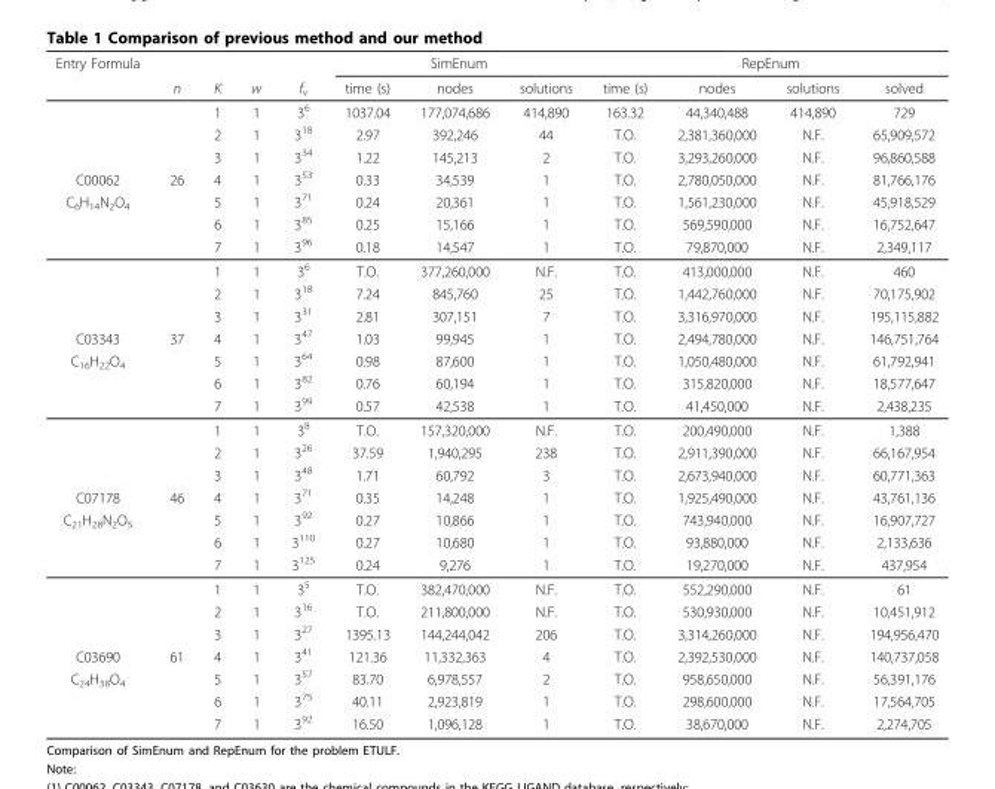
<table><thead><tr><td rowspan="2">Entry Formula</td><td rowspan="2">n</td><td rowspan="2">K</td><td rowspan="2">w</td><td rowspan="2">f<sub>v</sub></td><td colspan="3">SimEnum</td><td colspan="4">RepEnum</td></tr><tr><td>time (s)</td><td>nodes</td><td>solutions</td><td>time (s)</td><td>nodes</td><td>solutions</td><td>solved</td></tr></thead><tbody><tr><td></td><td></td><td>1</td><td>1</td><td>3<sup>6</sup></td><td>1037.04</td><td>177,074,686</td><td>414,890</td><td>163.32</td><td>44,340,488</td><td>414,890</td><td>729</td></tr><tr><td></td><td></td><td>2</td><td>1</td><td>3<sup>18</sup></td><td>2.97</td><td>392,246</td><td>44</td><td>T.O.</td><td>2,381,360,000</td><td>N.F.</td><td>65,909,572</td></tr><tr><td></td><td></td><td>3</td><td>1</td><td>3<sup>34</sup></td><td>1.22</td><td>145,213</td><td>2</td><td>T.O.</td><td>3,293,260,000</td><td>N.F.</td><td>96,860,588</td></tr><tr><td>C00062</td><td>26</td><td>4</td><td>1</td><td>3<sup>53</sup></td><td>0.33</td><td>34,539</td><td>1</td><td>T.O.</td><td>2,780,050,000</td><td>N.F.</td><td>81,766,176</td></tr><tr><td rowspan="6">C<sub>6</sub>H<sub>14</sub>N<sub>2</sub>O<sub>4</sub></td><td></td><td>5</td><td>1</td><td>3<sup>71</sup></td><td>0.24</td><td>20,361</td><td>1</td><td>T.O.</td><td>1,561,230,000</td><td>N.F.</td><td>45,918,529</td></tr><tr><td></td><td>6</td><td>1</td><td>3<sup>85</sup></td><td>0.25</td><td>15,166</td><td>1</td><td>T.O.</td><td>569,590,000</td><td>N.F.</td><td>16,752,647</td></tr><tr><td></td><td>7</td><td>1</td><td>3<sup>96</sup></td><td>0.18</td><td>14,547</td><td>1</td><td>T.O.</td><td>79,870,000</td><td>N.F.</td><td>2,349,117</td></tr><tr><td></td><td>1</td><td>1</td><td>3<sup>6</sup></td><td>T.O.</td><td>377,260,000</td><td>N.F.</td><td>T.O.</td><td>413,000,000</td><td>N.F.</td><td>460</td></tr><tr><td></td><td>2</td><td>1</td><td>3<sup>18</sup></td><td>7.24</td><td>845,760</td><td>25</td><td>T.O.</td><td>1,442,760,000</td><td>N.F.</td><td>70,175,902</td></tr><tr><td></td><td>3</td><td>1</td><td>3<sup>31</sup></td><td>2.81</td><td>307,151</td><td>7</td><td>T.O.</td><td>3,316,970,000</td><td>N.F.</td><td>195,115,882</td></tr><tr><td>C03343</td><td>37</td><td>4</td><td>1</td><td>3<sup>47</sup></td><td>1.03</td><td>99,945</td><td>1</td><td>T.O.</td><td>2,494,780,000</td><td>N.F.</td><td>146,751,764</td></tr><tr><td rowspan="6">C<sub>16</sub>H<sub>22</sub>O<sub>4</sub></td><td></td><td>5</td><td>1</td><td>3<sup>64</sup></td><td>0.98</td><td>87,600</td><td>1</td><td>T.O.</td><td>1,050,480,000</td><td>N.F.</td><td>61,792,941</td></tr><tr><td></td><td>6</td><td>1</td><td>3<sup>82</sup></td><td>0.76</td><td>60,194</td><td>1</td><td>T.O.</td><td>315,820,000</td><td>N.F.</td><td>18,577,647</td></tr><tr><td></td><td>7</td><td>1</td><td>3<sup>99</sup></td><td>0.57</td><td>42,538</td><td>1</td><td>T.O.</td><td>41,450,000</td><td>N.F.</td><td>2,438,235</td></tr><tr><td></td><td>1</td><td>1</td><td>3<sup>8</sup></td><td>T.O.</td><td>157,320,000</td><td>N.F.</td><td>T.O.</td><td>200,490,000</td><td>N.F.</td><td>1,388</td></tr><tr><td></td><td>2</td><td>1</td><td>3<sup>26</sup></td><td>37.59</td><td>1,940,295</td><td>238</td><td>T.O.</td><td>2,911,390,000</td><td>N.F.</td><td>66,167,954</td></tr><tr><td></td><td>3</td><td>1</td><td>3<sup>48</sup></td><td>1.71</td><td>60,792</td><td>3</td><td>T.O.</td><td>2,673,940,000</td><td>N.F.</td><td>60,771,363</td></tr><tr><td>C07178</td><td>46</td><td>4</td><td>1</td><td>3<sup>71</sup></td><td>0.35</td><td>14,248</td><td>1</td><td>T.O.</td><td>1,925,490,000</td><td>N.F.</td><td>43,761,136</td></tr><tr><td rowspan="6">C<sub>21</sub>H<sub>28</sub>N<sub>2</sub>O<sub>5</sub></td><td></td><td>5</td><td>1</td><td>3<sup>92</sup></td><td>0.27</td><td>10,866</td><td>1</td><td>T.O.</td><td>743,940,000</td><td>N.F.</td><td>16,907,727</td></tr><tr><td></td><td>6</td><td>1</td><td>3<sup>110</sup></td><td>0.27</td><td>10,680</td><td>1</td><td>T.O.</td><td>93,880,000</td><td>N.F.</td><td>2,133,636</td></tr><tr><td></td><td>7</td><td>1</td><td>3<sup>125</sup></td><td>0.24</td><td>9,276</td><td>1</td><td>T.O.</td><td>19,270,000</td><td>N.F.</td><td>437,954</td></tr><tr><td></td><td>1</td><td>1</td><td>3<sup>5</sup></td><td>T.O.</td><td>382,470,000</td><td>N.F.</td><td>T.O.</td><td>552,290,000</td><td>N.F.</td><td>61</td></tr><tr><td></td><td>2</td><td>1</td><td>3<sup>16</sup></td><td>T.O.</td><td>211,800,000</td><td>N.F.</td><td>T.O.</td><td>530,930,000</td><td>N.F.</td><td>10,451,912</td></tr><tr><td></td><td>3</td><td>1</td><td>3<sup>27</sup></td><td>1395.13</td><td>144,244,042</td><td>206</td><td>T.O.</td><td>3,314,260,000</td><td>N.F.</td><td>194,956,470</td></tr><tr><td>C03690</td><td>61</td><td>4</td><td>1</td><td>3<sup>41</sup></td><td>121.36</td><td>11,332,363</td><td>4</td><td>T.O.</td><td>2,392,530,000</td><td>N.F.</td><td>140,737,058</td></tr><tr><td rowspan="3">C<sub>24</sub>H<sub>38</sub>O<sub>4</sub></td><td></td><td>5</td><td>1</td><td>3<sup>57</sup></td><td>83.70</td><td>6,978,557</td><td>2</td><td>T.O.</td><td>958,650,000</td><td>N.F.</td><td>56,391,176</td></tr><tr><td></td><td>6</td><td>1</td><td>3<sup>75</sup></td><td>40.11</td><td>2,923,819</td><td>1</td><td>T.O.</td><td>298,600,000</td><td>N.F.</td><td>17,564,705</td></tr><tr><td></td><td>7</td><td>1</td><td>3<sup>92</sup></td><td>16.50</td><td>1,096,128</td><td>1</td><td>T.O.</td><td>38,670,000</td><td>N.F.</td><td>2,274,705</td></tr></tbody></table>